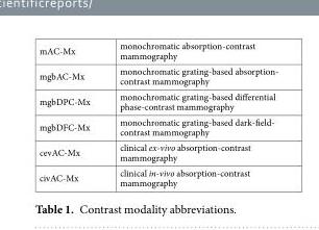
<table><tbody><tr><td>mAC-Mx</td><td>monochromatic absorption-contrast mammography</td></tr><tr><td>mgbAC-Mx</td><td>monochromatic grating-based absorption- contrast mammography</td></tr><tr><td>mgbDPC-Mx</td><td>monochromatic grating-based differential phase-contrast mammography</td></tr><tr><td>mgbDFC-Mx</td><td>monochromatic grating-based dark-field- contrast mammography</td></tr><tr><td>cevAC-Mx</td><td>clinical ex-vivo absorption-contrast mammography</td></tr><tr><td>civAC-Mx</td><td>clinical in-vivo absorption-contrast mammography</td></tr></tbody></table>